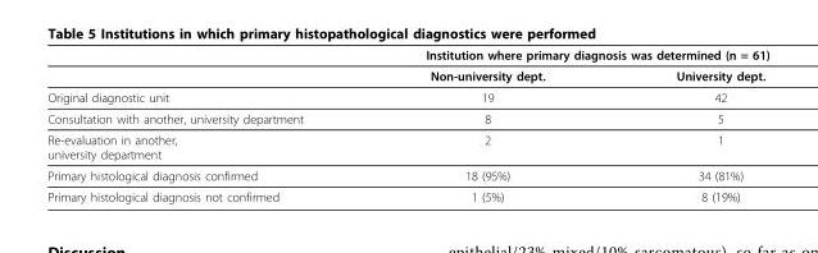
<table><thead><tr><td rowspan="2"></td><td colspan="2">Institution where primary diagnosis was determined (n = 61)</td></tr><tr><td>Non-university dept.</td><td>University dept.</td></tr></thead><tbody><tr><td>Original diagnostic unit</td><td>19</td><td>42</td></tr><tr><td>Consultation with another, university department</td><td>8</td><td>5</td></tr><tr><td>Re-evaluation in another, university department</td><td>2</td><td>1</td></tr><tr><td>Primary histological diagnosis confirmed</td><td>18 (95%)</td><td>34 (81%)</td></tr><tr><td>Primary histological diagnosis not confirmed</td><td>1 (5%)</td><td>8 (19%)</td></tr></tbody></table>